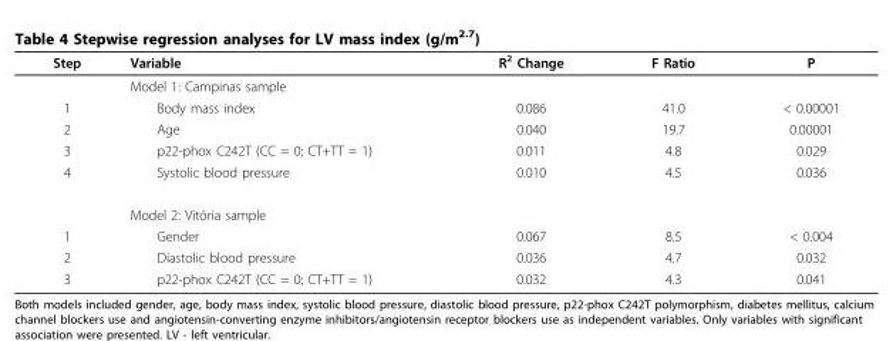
<table><thead><tr><td>Step</td><td>Variable</td><td>R<sup>2</sup> Change</td><td>F Ratio</td><td>P</td></tr></thead><tbody><tr><td></td><td>Model 1: Campinas sample</td><td></td><td></td><td></td></tr><tr><td>1</td><td>Body mass index</td><td>0.086</td><td>41.0</td><td>&lt; 0.00001</td></tr><tr><td>2</td><td>Age</td><td>0.040</td><td>19.7</td><td>0.00001</td></tr><tr><td>3</td><td>p22-phox C242T (CC = 0; CT+TT = 1)</td><td>0.011</td><td>4.8</td><td>0.029</td></tr><tr><td rowspan="2">4</td><td>Systolic blood pressure</td><td>0.010</td><td>4.5</td><td>0.036</td></tr><tr><td>Model 2: Vitória sample</td><td></td><td></td><td></td></tr><tr><td>1</td><td>Gender</td><td>0.067</td><td>8.5</td><td>&lt; 0.004</td></tr><tr><td>2</td><td>Diastolic blood pressure</td><td>0.036</td><td>4.7</td><td>0.032</td></tr><tr><td>3</td><td>p22-phox C242T (CC = 0; CT+TT = 1)</td><td>0.032</td><td>4.3</td><td>0.041</td></tr></tbody></table>